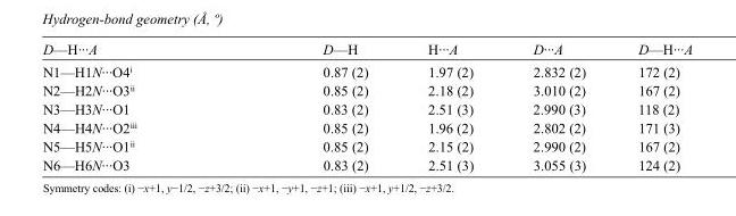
<table><tbody><tr><td>D—H···A</td><td>D—H</td><td>H···A</td><td>D···A</td><td>D—H···A</td></tr><tr><td>N1—H1N···O4<sup>i</sup></td><td>0.87 (2)</td><td>1.97 (2)</td><td>2.832 (2)</td><td>172 (2)</td></tr><tr><td>N2—H2N···O3<sup>ii</sup></td><td>0.85 (2)</td><td>2.18 (2)</td><td>3.010 (2)</td><td>167 (2)</td></tr><tr><td>N3—H3N···O1</td><td>0.83 (2)</td><td>2.51 (3)</td><td>2.990 (3)</td><td>118 (2)</td></tr><tr><td>N4—H4N···O2<sup>iii</sup></td><td>0.85 (2)</td><td>1.96 (2)</td><td>2.802 (2)</td><td>171 (3)</td></tr><tr><td>N5—H5N···O1<sup>ii</sup></td><td>0.85 (2)</td><td>2.15 (2)</td><td>2.990 (2)</td><td>167 (2)</td></tr><tr><td>N6—H6N···O3</td><td>0.83 (2)</td><td>2.51 (3)</td><td>3.055 (3)</td><td>124 (2)</td></tr></tbody></table>